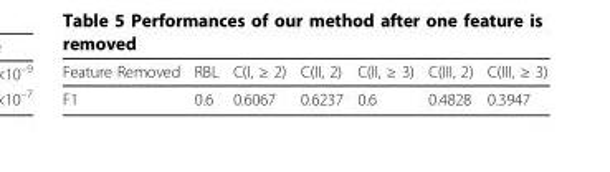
<table><thead><tr><td>Feature Removed</td><td>RBL</td><td>C(I, ≥ 2)</td><td>C(II, 2)</td><td>C(II, ≥ 3)</td><td>C(III, 2)</td><td>C(III, ≥ 3)</td></tr></thead><tbody><tr><td>F1</td><td>0.6</td><td>0.6067</td><td>0.6237</td><td>0.6</td><td>0.4828</td><td>0.3947</td></tr></tbody></table>